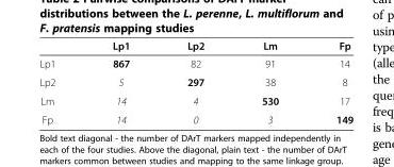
<table><thead><tr><td></td><td>Lp1</td><td>Lp2</td><td>Lm</td><td>Fp</td></tr></thead><tbody><tr><td>Lp1</td><td>867</td><td>82</td><td>91</td><td>14</td></tr><tr><td>Lp2</td><td>5</td><td>297</td><td>38</td><td>8</td></tr><tr><td>Lm</td><td>14</td><td>4</td><td>530</td><td>17</td></tr><tr><td>Fp</td><td>14</td><td>0</td><td>3</td><td>149</td></tr></tbody></table>